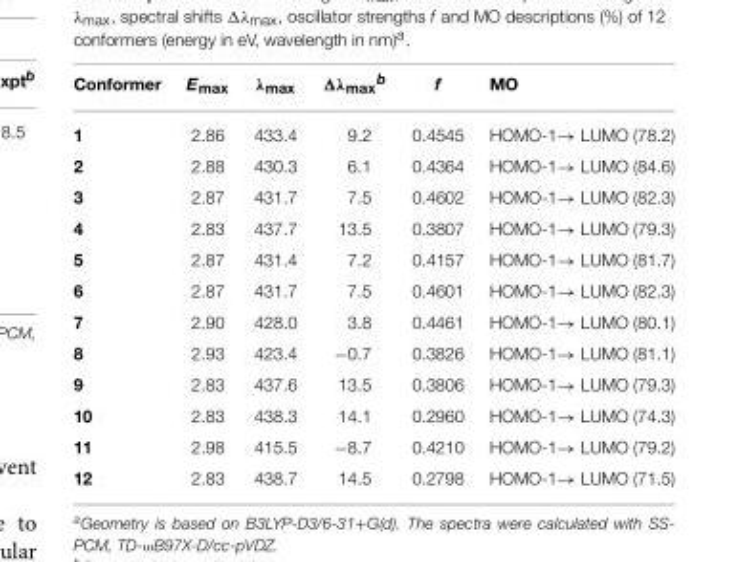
<table><thead><tr><td>Conformer</td><td>E<sub>max</sub></td><td>λ<sub>max</sub></td><td>Δλ<sub>max</sub><sup>b</sup></td><td>f</td><td>MO</td></tr></thead><tbody><tr><td>1</td><td>2.86</td><td>433.4</td><td>9.2</td><td>0.4545</td><td>HOMO-1→ LUMO (78.2)</td></tr><tr><td>2</td><td>2.88</td><td>430.3</td><td>6.1</td><td>0.4364</td><td>HOMO-1→ LUMO (84.6)</td></tr><tr><td>3</td><td>2.87</td><td>431.7</td><td>7.5</td><td>0.4602</td><td>HOMO-1→ LUMO (82.3)</td></tr><tr><td>4</td><td>2.83</td><td>437.7</td><td>13.5</td><td>0.3807</td><td>HOMO-1→ LUMO (79.3)</td></tr><tr><td>5</td><td>2.87</td><td>431.4</td><td>7.2</td><td>0.4157</td><td>HOMO-1→ LUMO (81.7)</td></tr><tr><td>6</td><td>2.87</td><td>431.7</td><td>7.5</td><td>0.4601</td><td>HOMO-1→ LUMO (82.3)</td></tr><tr><td>7</td><td>2.90</td><td>428.0</td><td>3.8</td><td>0.4461</td><td>HOMO-1→ LUMO (80.1)</td></tr><tr><td>8</td><td>2.93</td><td>423.4</td><td>−0.7</td><td>0.3826</td><td>HOMO-1→ LUMO (81.1)</td></tr><tr><td>9</td><td>2.83</td><td>437.6</td><td>13.5</td><td>0.3806</td><td>HOMO-1→ LUMO (79.3)</td></tr><tr><td>10</td><td>2.83</td><td>438.3</td><td>14.1</td><td>0.2960</td><td>HOMO-1→ LUMO (74.3)</td></tr><tr><td>11</td><td>2.98</td><td>415.5</td><td>−8.7</td><td>0.4210</td><td>HOMO-1→ LUMO (79.2)</td></tr><tr><td>12</td><td>2.83</td><td>438.7</td><td>14.5</td><td>0.2798</td><td>HOMO-1→ LUMO (71.5)</td></tr></tbody></table>